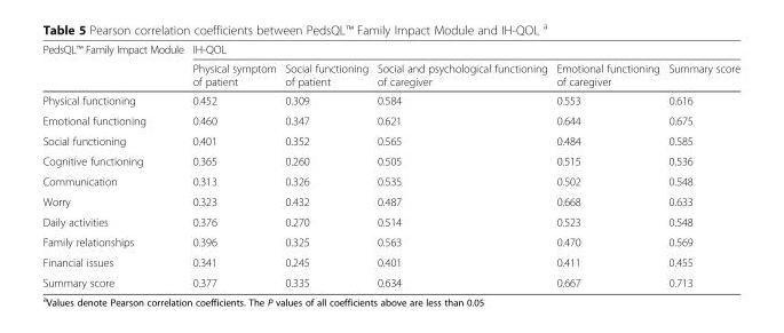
<table><thead><tr><td rowspan="2">PedsQL™ Family Impact Module</td><td colspan="5">IH-QOL</td></tr><tr><td>Physical symptom of patient</td><td>Social functioning of patient</td><td>Social and psychological functioning of caregiver</td><td>Emotional functioning of caregiver</td><td>Summary score</td></tr></thead><tbody><tr><td>Physical functioning</td><td>0.452</td><td>0.309</td><td>0.584</td><td>0.553</td><td>0.616</td></tr><tr><td>Emotional functioning</td><td>0.460</td><td>0.347</td><td>0.621</td><td>0.644</td><td>0.675</td></tr><tr><td>Social functioning</td><td>0.401</td><td>0.352</td><td>0.565</td><td>0.484</td><td>0.585</td></tr><tr><td>Cognitive functioning</td><td>0.365</td><td>0.260</td><td>0.505</td><td>0.515</td><td>0.536</td></tr><tr><td>Communication</td><td>0.313</td><td>0.326</td><td>0.535</td><td>0.502</td><td>0.548</td></tr><tr><td>Worry</td><td>0.323</td><td>0.432</td><td>0.487</td><td>0.668</td><td>0.633</td></tr><tr><td>Daily activities</td><td>0.376</td><td>0.270</td><td>0.514</td><td>0.523</td><td>0.548</td></tr><tr><td>Family relationships</td><td>0.396</td><td>0.325</td><td>0.563</td><td>0.470</td><td>0.569</td></tr><tr><td>Financial issues</td><td>0.341</td><td>0.245</td><td>0.401</td><td>0.411</td><td>0.455</td></tr><tr><td>Summary score</td><td>0.377</td><td>0.335</td><td>0.634</td><td>0.667</td><td>0.713</td></tr></tbody></table>